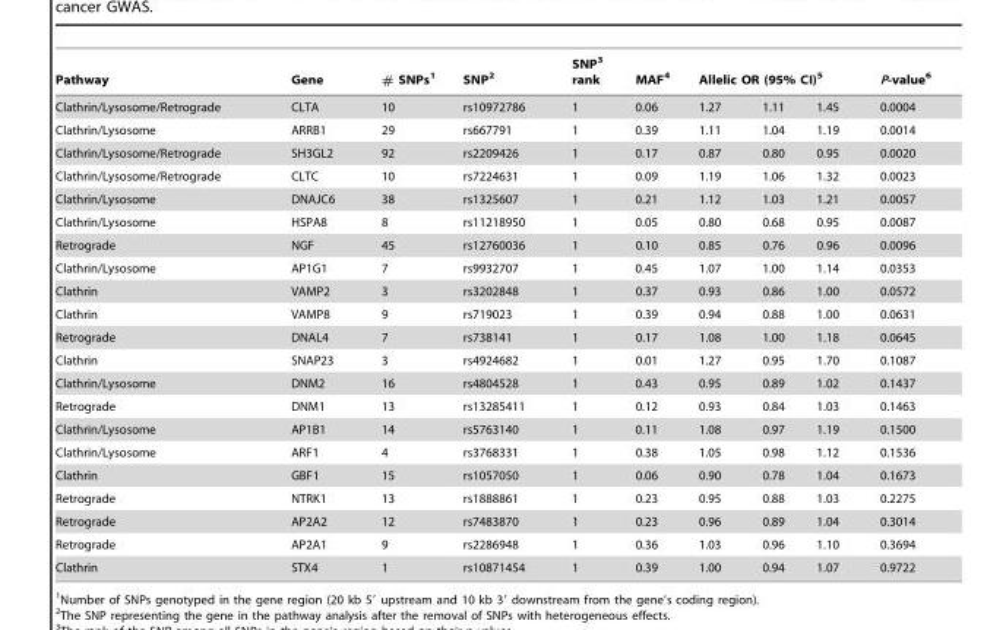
<table><thead><tr><td rowspan="2">Pathway Clathrin/Lysosome/Retrograde</td><td rowspan="2">Gene CLTA</td><td rowspan="2"># SNPs<sup>1</sup> 10</td><td rowspan="2">SNP<sup>2</sup> rs10972786</td><td rowspan="2">SNP<sup>3</sup> rank 1</td><td rowspan="2">MAF<sup>4</sup> 0.06</td><td colspan="3">Allelic OR (95% CI)<sup>5</sup></td><td rowspan="2">P-value<sup>6</sup> 0.0004</td></tr><tr><td>1.27</td><td>1.11</td><td>1.45</td></tr></thead><tbody><tr><td>Clathrin/Lysosome</td><td>ARRB1</td><td>29</td><td>rs667791</td><td>1</td><td>0.39</td><td>1.11</td><td>1.04</td><td>1.19</td><td>0.0014</td></tr><tr><td>Clathrin/Lysosome/Retrograde</td><td>SH3GL2</td><td>92</td><td>rs2209426</td><td>1</td><td>0.17</td><td>0.87</td><td>0.80</td><td>0.95</td><td>0.0020</td></tr><tr><td>Clathrin/Lysosome/Retrograde</td><td>CLTC</td><td>10</td><td>rs7224631</td><td>1</td><td>0.09</td><td>1.19</td><td>1.06</td><td>1.32</td><td>0.0023</td></tr><tr><td>Clathrin/Lysosome</td><td>DNAJC6</td><td>38</td><td>rs1325607</td><td>1</td><td>0.21</td><td>1.12</td><td>1.03</td><td>1.21</td><td>0.0057</td></tr><tr><td>Clathrin/Lysosome</td><td>HSPA8</td><td>8</td><td>rs11218950</td><td>1</td><td>0.05</td><td>0.80</td><td>0.68</td><td>0.95</td><td>0.0087</td></tr><tr><td>Retrograde</td><td>NGF</td><td>45</td><td>rs12760036</td><td>1</td><td>0.10</td><td>0.85</td><td>0.76</td><td>0.96</td><td>0.0096</td></tr><tr><td>Clathrin/Lysosome</td><td>AP1G1</td><td>7</td><td>rs9932707</td><td>1</td><td>0.45</td><td>1.07</td><td>1.00</td><td>1.14</td><td>0.0353</td></tr><tr><td>Clathrin</td><td>VAMP2</td><td>3</td><td>rs3202848</td><td>1</td><td>0.37</td><td>0.93</td><td>0.86</td><td>1.00</td><td>0.0572</td></tr><tr><td>Clathrin</td><td>VAMP8</td><td>9</td><td>rs719023</td><td>1</td><td>0.39</td><td>0.94</td><td>0.88</td><td>1.00</td><td>0.0631</td></tr><tr><td>Retrograde</td><td>DNAL4</td><td>7</td><td>rs738141</td><td>1</td><td>0.17</td><td>1.08</td><td>1.00</td><td>1.18</td><td>0.0645</td></tr><tr><td>Clathrin</td><td>SNAP23</td><td>3</td><td>rs4924682</td><td>1</td><td>0.01</td><td>1.27</td><td>0.95</td><td>1.70</td><td>0.1087</td></tr><tr><td>Clathrin/Lysosome</td><td>DNM2</td><td>16</td><td>rs4804528</td><td>1</td><td>0.43</td><td>0.95</td><td>0.89</td><td>1.02</td><td>0.1437</td></tr><tr><td>Retrograde</td><td>DNM1</td><td>13</td><td>rs13285411</td><td>1</td><td>0.12</td><td>0.93</td><td>0.84</td><td>1.03</td><td>0.1463</td></tr><tr><td>Clathrin/Lysosome</td><td>AP1B1</td><td>14</td><td>rs5763140</td><td>1</td><td>0.11</td><td>1.08</td><td>0.97</td><td>1.19</td><td>0.1500</td></tr><tr><td>Clathrin/Lysosome</td><td>ARF1</td><td>4</td><td>rs3768331</td><td>1</td><td>0.38</td><td>1.05</td><td>0.98</td><td>1.12</td><td>0.1536</td></tr><tr><td>Clathrin</td><td>GBF1</td><td>15</td><td>rs1057050</td><td>1</td><td>0.06</td><td>0.90</td><td>0.78</td><td>1.04</td><td>0.1673</td></tr><tr><td>Retrograde</td><td>NTRK1</td><td>13</td><td>rs1888861</td><td>1</td><td>0.23</td><td>0.95</td><td>0.88</td><td>1.03</td><td>0.2275</td></tr><tr><td>Retrograde</td><td>AP2A2</td><td>12</td><td>rs7483870</td><td>1</td><td>0.23</td><td>0.96</td><td>0.89</td><td>1.04</td><td>0.3014</td></tr><tr><td>Retrograde</td><td>AP2A1</td><td>9</td><td>rs2286948</td><td>1</td><td>0.36</td><td>1.03</td><td>0.96</td><td>1.10</td><td>0.3694</td></tr><tr><td>Clathrin</td><td>STX4</td><td>1</td><td>rs10871454</td><td>1</td><td>0.39</td><td>1.00</td><td>0.94</td><td>1.07</td><td>0.9722</td></tr></tbody></table>